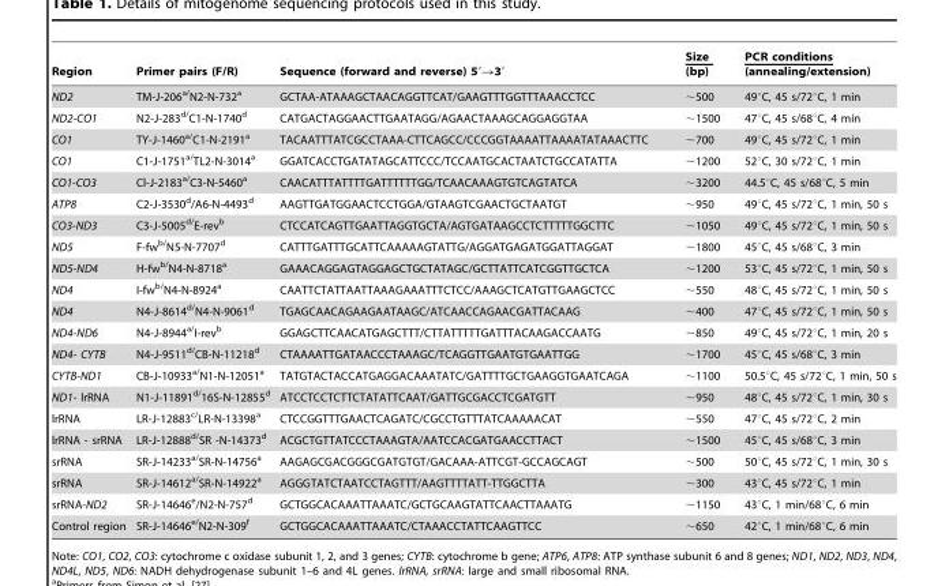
<table><thead><tr><td>Region</td><td>Primer pairs (F/R)</td><td>Sequence (forward and reverse) 5′→3′</td><td>Size (bp)</td><td>PCR conditions (annealing/extension)</td></tr></thead><tbody><tr><td>ND2</td><td>TM-J-206<sup>a/</sup>N2-N-732<sup>a</sup></td><td>GCTAA-ATAAAGCTAACAGGTTCAT/GAAGTTTGGTTTAAACCTCC</td><td>∼500</td><td>49°C, 45 s/72°C, 1 min</td></tr><tr><td>ND2-CO1</td><td>N2-J-283<sup>d/</sup>C1-N-1740<sup>d</sup></td><td>CATGACTAGGAACTTGAATAGG/AGAACTAAAGCAGGAGGTAA</td><td>∼1500</td><td>47°C, 45 s/68°C, 4 min</td></tr><tr><td>CO1</td><td>TY-J-1460<sup>a/</sup>C1-N-2191<sup>a</sup></td><td>TACAATTTATCGCCTAAA-CTTCAGCC/CCCGGTAAAATTAAAATATAAACTTC</td><td>∼700</td><td>49°C, 45 s/72°C, 1 min</td></tr><tr><td>CO1</td><td>C1-J-1751<sup>a/</sup>TL2-N-3014<sup>a</sup></td><td>GGATCACCTGATATAGCATTCCC/TCCAATGCACTAATCTGCCATATTA</td><td>∼1200</td><td>52°C, 30 s/72°C, 1 min</td></tr><tr><td>CO1-CO3</td><td>Cl-J-2183<sup>a/</sup>C3-N-5460<sup>a</sup></td><td>CAACATTTATTTTGATTTTTTGG/TCAACAAAGTGTCAGTATCA</td><td>∼3200</td><td>44.5°C, 45 s/68°C, 5 min</td></tr><tr><td>ATP8</td><td>C2-J-3530<sup>d</sup>/A6-N-4493<sup>d</sup></td><td>AAGTTGATGGAACTCCTGGA/GTAAGTCGAACTGCTAATGT</td><td>∼950</td><td>49°C, 45 s/72°C, 1 min, 50 s</td></tr><tr><td>CO3-ND3</td><td>C3-J-5005<sup>d/</sup>E-rev<sup>b</sup></td><td>CTCCATCAGTTGAATTAGGTGCTA/AGTGATAAGCCTCTTTTTGGCTTC</td><td>∼1050</td><td>49°C, 45 s/72°C, 1 min, 50 s</td></tr><tr><td>ND5</td><td>F-fw<sup>b/</sup>N5-N-7707<sup>d</sup></td><td>CATTTGATTTGCATTCAAAAAGTATTG/AGGATGAGATGGATTAGGAT</td><td>∼1800</td><td>45°C, 45 s/68°C, 3 min</td></tr><tr><td>ND5-ND4</td><td>H-fw<sup>b/</sup>N4-N-8718<sup>a</sup></td><td>GAAACAGGAGTAGGAGCTGCTATAGC/GCTTATTCATCGGTTGCTCA</td><td>∼1200</td><td>53°C, 45 s/72°C, 1 min, 50 s</td></tr><tr><td>ND4</td><td>I-fw<sup>b/</sup>N4-N-8924<sup>a</sup></td><td>CAATTCTATTAATTAAAGAAATTTCTCC/AAAGCTCATGTTGAAGCTCC</td><td>∼550</td><td>48°C, 45 s/72°C, 1 min, 50 s</td></tr><tr><td>ND4</td><td>N4-J-8614<sup>d/</sup>N4-N-9061<sup>d</sup></td><td>TGAGCAACAGAAGAATAAGC/ATCAACCAGAACGATTACAAG</td><td>∼400</td><td>47°C, 45 s/72°C, 1 min, 50 s</td></tr><tr><td>ND4-ND6</td><td>N4-J-8944<sup>a/</sup>I-rev<sup>b</sup></td><td>GGAGCTTCAACATGAGCTTT/CTTATTTTTGATTTACAAGACCAATG</td><td>∼850</td><td>49°C, 45 s/72°C, 1 min, 20 s</td></tr><tr><td>ND4- CYTB</td><td>N4-J-9511<sup>d/</sup>CB-N-11218<sup>d</sup></td><td>CTAAAATTGATAACCCTAAAGC/TCAGGTTGAATGTGAATTGG</td><td>∼1700</td><td>45°C, 45 s/68°C, 3 min</td></tr><tr><td>CYTB-ND1</td><td>CB-J-10933<sup>a/</sup>N1-N-12051<sup>a</sup></td><td>TATGTACTACCATGAGGACAAATATC/GATTTTGCTGAAGGTGAATCAGA</td><td>∼1100</td><td>50.5°C, 45 s/72°C, 1 min, 50 s</td></tr><tr><td>ND1- lrRNA</td><td>N1-J-11891<sup>d/</sup>16S-N-12855<sup>d</sup></td><td>ATCCTCCTCTTCTATATTCAAT/GATTGCGACCTCGATGTT</td><td>∼950</td><td>48°C, 45 s/72°C, 1 min, 30 s</td></tr><tr><td>lrRNA</td><td>LR-J-12883<sup>c/</sup>LR-N-13398<sup>a</sup></td><td>CTCCGGTTTGAACTCAGATC/CGCCTGTTTATCAAAAACAT</td><td>∼550</td><td>47°C, 45 s/72°C, 2 min</td></tr><tr><td>lrRNA - srRNA</td><td>LR-J-12888<sup>d/</sup>SR -N-14373<sup>d</sup></td><td>ACGCTGTTATCCCTAAAGTA/AATCCACGATGAACCTTACT</td><td>∼1500</td><td>45°C, 45 s/68°C, 3 min</td></tr><tr><td>srRNA</td><td>SR-J-14233<sup>a/</sup>SR-N-14756<sup>a</sup></td><td>AAGAGCGACGGGCGATGTGT/GACAAA-ATTCGT-GCCAGCAGT</td><td>∼500</td><td>50°C, 45 s/72°C, 1 min, 30 s</td></tr><tr><td>srRNA</td><td>SR-J-14612<sup>a/</sup>SR-N-14922<sup>a</sup></td><td>AGGGTATCTAATCCTAGTTT/AAGTTTTATT-TTGGCTTA</td><td>∼300</td><td>43°C, 45 s/72°C, 1 min</td></tr><tr><td>srRNA-ND2</td><td>SR-J-14646<sup>e</sup>/N2-N-757<sup>d</sup></td><td>GCTGGCACAAATTAAATC/GCTGCAAGTATTCAACTTAAATG</td><td>∼1150</td><td>43°C, 1 min/68°C, 6 min</td></tr><tr><td>Control region</td><td>SR-J-14646<sup>e/</sup>N2-N-309<sup>f</sup></td><td>GCTGGCACAAATTAAATC/CTAAACCTATTCAAGTTCC</td><td>∼650</td><td>42°C, 1 min/68°C, 6 min</td></tr></tbody></table>